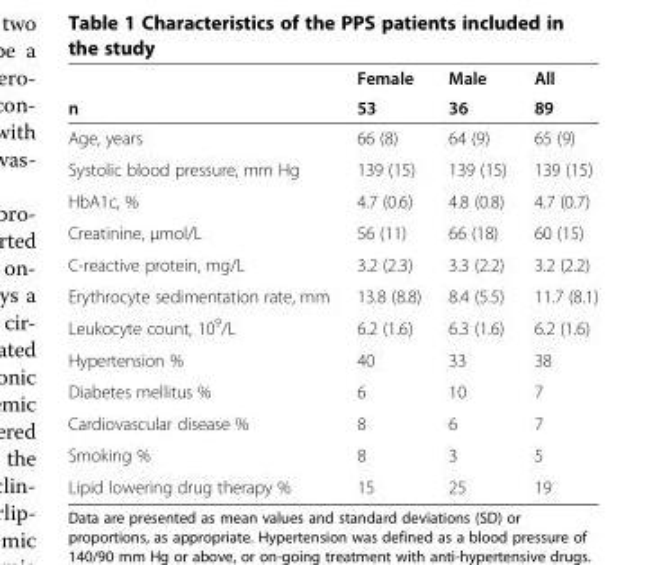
<table><thead><tr><td rowspan="2">n</td><td rowspan="2">Female 53</td><td rowspan="2">Male 36</td><td rowspan="2">All 89</td></tr><tr></tr></thead><tbody><tr><td>Age, years</td><td>66 (8)</td><td>64 (9)</td><td>65 (9)</td></tr><tr><td>Systolic blood pressure, mm Hg</td><td>139 (15)</td><td>139 (15)</td><td>139 (15)</td></tr><tr><td>HbA1c, %</td><td>4.7 (0.6)</td><td>4.8 (0.8)</td><td>4.7 (0.7)</td></tr><tr><td>Creatinine, μmol/L</td><td>56 (11)</td><td>66 (18)</td><td>60 (15)</td></tr><tr><td>C-reactive protein, mg/L</td><td>3.2 (2.3)</td><td>3.3 (2.2)</td><td>3.2 (2.2)</td></tr><tr><td>Erythrocyte sedimentation rate, mm</td><td>13.8 (8.8)</td><td>8.4 (5.5)</td><td>11.7 (8.1)</td></tr><tr><td>Leukocyte count, 10<sup>9</sup>/L</td><td>6.2 (1.6)</td><td>6.3 (1.6)</td><td>6.2 (1.6)</td></tr><tr><td>Hypertension %</td><td>40</td><td>33</td><td>38</td></tr><tr><td>Diabetes mellitus %</td><td>6</td><td>10</td><td>7</td></tr><tr><td>Cardiovascular disease %</td><td>8</td><td>6</td><td>7</td></tr><tr><td>Smoking %</td><td>8</td><td>3</td><td>5</td></tr><tr><td>Lipid lowering drug therapy %</td><td>15</td><td>25</td><td>19</td></tr></tbody></table>